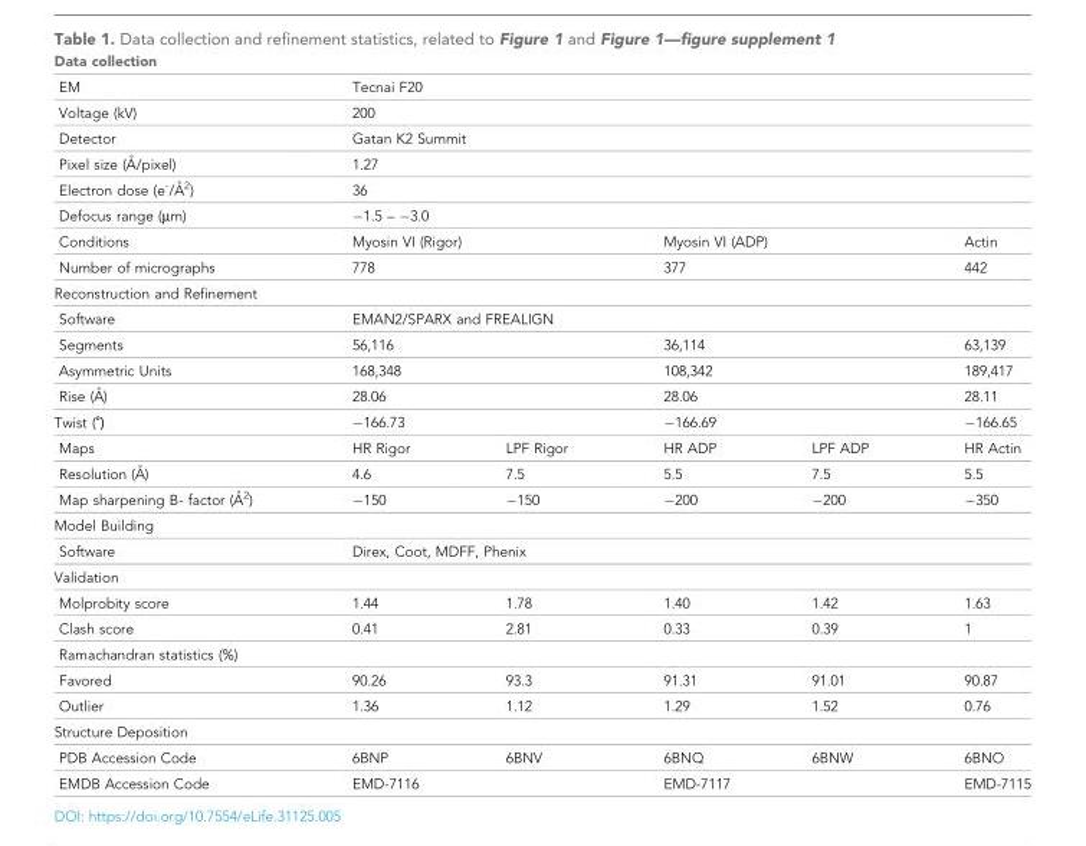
<table><thead><tr><td>Data collection</td><td></td><td></td><td></td><td></td><td></td></tr></thead><tbody><tr><td>EM</td><td colspan="5">Tecnai F20</td></tr><tr><td>Voltage (kV)</td><td colspan="5">200</td></tr><tr><td>Detector</td><td colspan="5">Gatan K2 Summit</td></tr><tr><td>Pixel size (A˚ /pixel)</td><td colspan="5">1.27</td></tr><tr><td>Electron dose (e-/A˚ 2)</td><td colspan="5">36</td></tr><tr><td>Defocus range (μm)</td><td colspan="5">−1.5 – −3.0</td></tr><tr><td>Conditions</td><td colspan="2">Myosin VI (Rigor)</td><td colspan="2">Myosin VI (ADP)</td><td>Actin</td></tr><tr><td>Number of micrographs</td><td colspan="2">778</td><td colspan="2">377</td><td>442</td></tr><tr><td colspan="6">Reconstruction and Refinement</td></tr><tr><td>Software</td><td colspan="5">EMAN2/SPARX and FREALIGN</td></tr><tr><td>Segments</td><td colspan="2">56,116</td><td colspan="2">36,114</td><td>63,139</td></tr><tr><td>Asymmetric Units</td><td colspan="2">168,348</td><td colspan="2">108,342</td><td>189,417</td></tr><tr><td>Rise (A˚ )</td><td colspan="2">28.06</td><td colspan="2">28.06</td><td>28.11</td></tr><tr><td>Twist (˚)</td><td colspan="2">−166.73</td><td colspan="2">−166.69</td><td>−166.65</td></tr><tr><td>Maps</td><td>HR Rigor</td><td>LPF Rigor</td><td>HR ADP</td><td>LPF ADP</td><td>HR Actin</td></tr><tr><td>Resolution (A˚ )</td><td>4.6</td><td>7.5</td><td>5.5</td><td>7.5</td><td>5.5</td></tr><tr><td>Map sharpening B- factor (A˚ 2)</td><td>−150</td><td>−150</td><td>−200</td><td>−200</td><td>−350</td></tr><tr><td colspan="6">Model Building</td></tr><tr><td>Software</td><td colspan="5">Direx, Coot, MDFF, Phenix</td></tr><tr><td colspan="6">Validation</td></tr><tr><td>Molprobity score</td><td>1.44</td><td>1.78</td><td>1.40</td><td>1.42</td><td>1.63</td></tr><tr><td>Clash score</td><td>0.41</td><td>2.81</td><td>0.33</td><td>0.39</td><td>1</td></tr><tr><td colspan="6">Ramachandran statistics (%)</td></tr><tr><td>Favored</td><td>90.26</td><td>93.3</td><td>91.31</td><td>91.01</td><td>90.87</td></tr><tr><td>Outlier</td><td>1.36</td><td>1.12</td><td>1.29</td><td>1.52</td><td>0.76</td></tr><tr><td colspan="6">Structure Deposition</td></tr><tr><td>PDB Accession Code</td><td>6BNP</td><td>6BNV</td><td>6BNQ</td><td>6BNW</td><td>6BNO</td></tr><tr><td>EMDB Accession Code</td><td colspan="2">EMD-7116</td><td colspan="2">EMD-7117</td><td>EMD-7115</td></tr></tbody></table>